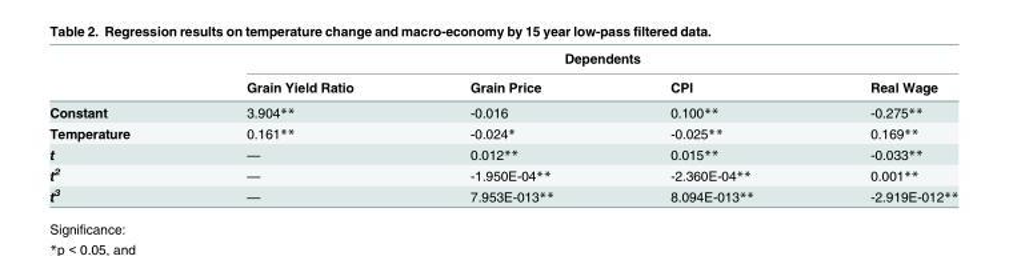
<table><thead><tr><td rowspan="2"></td><td colspan="4">Dependents</td></tr><tr><td>Grain Yield Ratio</td><td>Grain Price</td><td>CPI</td><td>Real Wage</td></tr></thead><tbody><tr><td>Constant</td><td>3.904**</td><td>-0.016</td><td>0.100**</td><td>-0.275**</td></tr><tr><td>Temperature</td><td>0.161**</td><td>-0.024*</td><td>-0.025**</td><td>0.169**</td></tr><tr><td>t</td><td>—</td><td>0.012**</td><td>0.015**</td><td>-0.033**</td></tr><tr><td>t<sup>2</sup></td><td>—</td><td>-1.950E-04**</td><td>-2.360E-04**</td><td>0.001**</td></tr><tr><td>t<sup>3</sup></td><td>—</td><td>7.953E-013**</td><td>8.094E-013**</td><td>-2.919E-012**</td></tr></tbody></table>